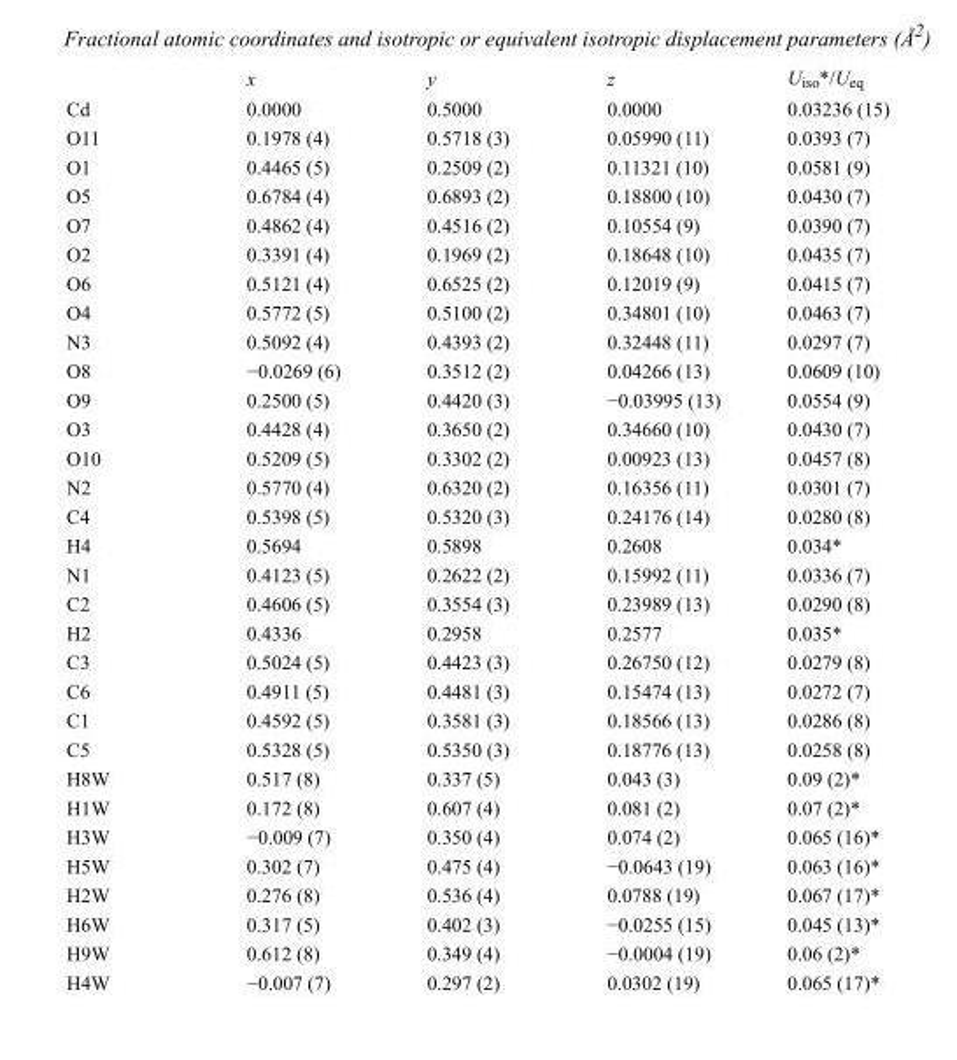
<table><thead><tr><td></td><td>x</td><td>y</td><td>z</td><td>U<sub>iso</sub>*/U<sub>eq</sub></td></tr></thead><tbody><tr><td>Cd</td><td>0.0000</td><td>0.5000</td><td>0.0000</td><td>0.03236 (15)</td></tr><tr><td>O11</td><td>0.1978 (4)</td><td>0.5718 (3)</td><td>0.05990 (11)</td><td>0.0393 (7)</td></tr><tr><td>O1</td><td>0.4465 (5)</td><td>0.2509 (2)</td><td>0.11321 (10)</td><td>0.0581 (9)</td></tr><tr><td>O5</td><td>0.6784 (4)</td><td>0.6893 (2)</td><td>0.18800 (10)</td><td>0.0430 (7)</td></tr><tr><td>O7</td><td>0.4862 (4)</td><td>0.4516 (2)</td><td>0.10554 (9)</td><td>0.0390 (7)</td></tr><tr><td>O2</td><td>0.3391 (4)</td><td>0.1969 (2)</td><td>0.18648 (10)</td><td>0.0435 (7)</td></tr><tr><td>O6</td><td>0.5121 (4)</td><td>0.6525 (2)</td><td>0.12019 (9)</td><td>0.0415 (7)</td></tr><tr><td>O4</td><td>0.5772 (5)</td><td>0.5100 (2)</td><td>0.34801 (10)</td><td>0.0463 (7)</td></tr><tr><td>N3</td><td>0.5092 (4)</td><td>0.4393 (2)</td><td>0.32448 (11)</td><td>0.0297 (7)</td></tr><tr><td>O8</td><td>−0.0269 (6)</td><td>0.3512 (2)</td><td>0.04266 (13)</td><td>0.0609 (10)</td></tr><tr><td>O9</td><td>0.2500 (5)</td><td>0.4420 (3)</td><td>−0.03995 (13)</td><td>0.0554 (9)</td></tr><tr><td>O3</td><td>0.4428 (4)</td><td>0.3650 (2)</td><td>0.34660 (10)</td><td>0.0430 (7)</td></tr><tr><td>O10</td><td>0.5209 (5)</td><td>0.3302 (2)</td><td>0.00923 (13)</td><td>0.0457 (8)</td></tr><tr><td>N2</td><td>0.5770 (4)</td><td>0.6320 (2)</td><td>0.16356 (11)</td><td>0.0301 (7)</td></tr><tr><td>C4</td><td>0.5398 (5)</td><td>0.5320 (3)</td><td>0.24176 (14)</td><td>0.0280 (8)</td></tr><tr><td>H4</td><td>0.5694</td><td>0.5898</td><td>0.2608</td><td>0.034*</td></tr><tr><td>N1</td><td>0.4123 (5)</td><td>0.2622 (2)</td><td>0.15992 (11)</td><td>0.0336 (7)</td></tr><tr><td>C2</td><td>0.4606 (5)</td><td>0.3554 (3)</td><td>0.23989 (13)</td><td>0.0290 (8)</td></tr><tr><td>H2</td><td>0.4336</td><td>0.2958</td><td>0.2577</td><td>0.035*</td></tr><tr><td>C3</td><td>0.5024 (5)</td><td>0.4423 (3)</td><td>0.26750 (12)</td><td>0.0279 (8)</td></tr><tr><td>C6</td><td>0.4911 (5)</td><td>0.4481 (3)</td><td>0.15474 (13)</td><td>0.0272 (7)</td></tr><tr><td>C1</td><td>0.4592 (5)</td><td>0.3581 (3)</td><td>0.18566 (13)</td><td>0.0286 (8)</td></tr><tr><td>C5</td><td>0.5328 (5)</td><td>0.5350 (3)</td><td>0.18776 (13)</td><td>0.0258 (8)</td></tr><tr><td>H8W</td><td>0.517 (8)</td><td>0.337 (5)</td><td>0.043 (3)</td><td>0.09 (2)*</td></tr><tr><td>H1W</td><td>0.172 (8)</td><td>0.607 (4)</td><td>0.081 (2)</td><td>0.07 (2)*</td></tr><tr><td>H3W</td><td>−0.009 (7)</td><td>0.350 (4)</td><td>0.074 (2)</td><td>0.065 (16)*</td></tr><tr><td>H5W</td><td>0.302 (7)</td><td>0.475 (4)</td><td>−0.0643 (19)</td><td>0.063 (16)*</td></tr><tr><td>H2W</td><td>0.276 (8)</td><td>0.536 (4)</td><td>0.0788 (19)</td><td>0.067 (17)*</td></tr><tr><td>H6W</td><td>0.317 (5)</td><td>0.402 (3)</td><td>−0.0255 (15)</td><td>0.045 (13)*</td></tr><tr><td>H9W</td><td>0.612 (8)</td><td>0.349 (4)</td><td>−0.0004 (19)</td><td>0.06 (2)*</td></tr><tr><td>H4W</td><td>−0.007 (7)</td><td>0.297 (2)</td><td>0.0302 (19)</td><td>0.065 (17)*</td></tr></tbody></table>